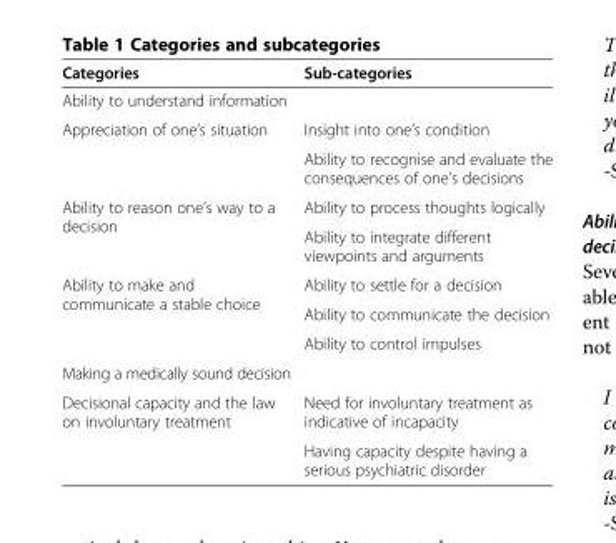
<table><thead><tr><td>Categories</td><td>Sub-categories</td></tr></thead><tbody><tr><td colspan="2">Ability to understand information</td></tr><tr><td rowspan="2">Appreciation of one’s situation</td><td>Insight into one’s condition</td></tr><tr><td>Ability to recognise and evaluate the consequences of one’s decisions</td></tr><tr><td rowspan="2">Ability to reason one’s way to a decision</td><td>Ability to process thoughts logically</td></tr><tr><td>Ability to integrate different viewpoints and arguments</td></tr><tr><td rowspan="3">Ability to make and communicate a stable choice</td><td>Ability to settle for a decision</td></tr><tr><td>Ability to communicate the decision</td></tr><tr><td>Ability to control impulses</td></tr><tr><td colspan="2">Making a medically sound decision</td></tr><tr><td rowspan="2">Decisional capacity and the law on involuntary treatment</td><td>Need for involuntary treatment as indicative of incapacity</td></tr><tr><td>Having capacity despite having a serious psychiatric disorder</td></tr></tbody></table>